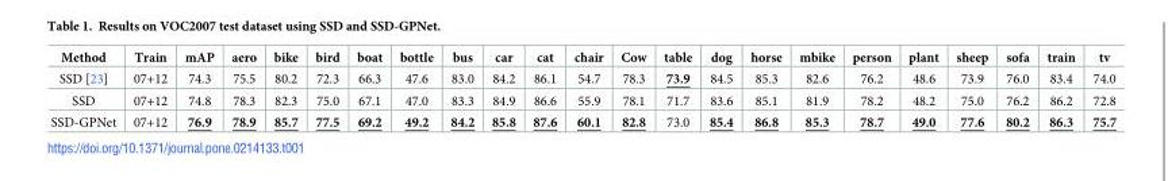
<table><thead><tr><td>Method</td><td>Train</td><td>mAP</td><td>aero</td><td>bike</td><td>bird</td><td>boat</td><td>bottle</td><td>bus</td><td>car</td><td>cat</td><td>chair</td><td>Cow</td><td>table</td><td>dog</td><td>horse</td><td>mbike</td><td>person</td><td>plant</td><td>sheep</td><td>sofa</td><td>train</td><td>tv</td></tr></thead><tbody><tr><td>SSD [23]</td><td>07+12</td><td>74.3</td><td>75.5</td><td>80.2</td><td>72.3</td><td>66.3</td><td>47.6</td><td>83.0</td><td>84.2</td><td>86.1</td><td>54.7</td><td>78.3</td><td>73.9</td><td>84.5</td><td>85.3</td><td>82.6</td><td>76.2</td><td>48.6</td><td>73.9</td><td>76.0</td><td>83.4</td><td>74.0</td></tr><tr><td>SSD</td><td>07+12</td><td>74.8</td><td>78.3</td><td>82.3</td><td>75.0</td><td>67.1</td><td>47.0</td><td>83.3</td><td>84.9</td><td>86.6</td><td>55.9</td><td>78.1</td><td>71.7</td><td>83.6</td><td>85.1</td><td>81.9</td><td>78.2</td><td>48.2</td><td>75.0</td><td>76.2</td><td>86.2</td><td>72.8</td></tr><tr><td>SSD-GPNet</td><td>07+12</td><td>76.9</td><td>78.9</td><td>85.7</td><td>77.5</td><td>69.2</td><td>49.2</td><td>84.2</td><td>85.8</td><td>87.6</td><td>60.1</td><td>82.8</td><td>73.0</td><td>85.4</td><td>86.8</td><td>85.3</td><td>78.7</td><td>49.0</td><td>77.6</td><td>80.2</td><td>86.3</td><td>75.7</td></tr></tbody></table>